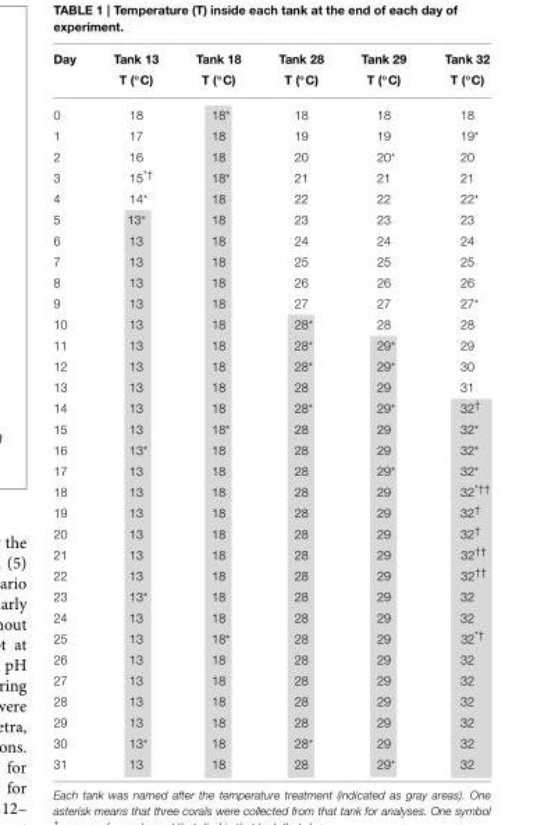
<table><thead><tr><td>Day</td><td>Tank 13 T (◦C)</td><td>Tank 18 T (◦C)</td><td>Tank 28 T (◦C)</td><td>Tank 29 T (◦C)</td><td>Tank 32 T (◦C)</td></tr></thead><tbody><tr><td>0</td><td>18</td><td>18*</td><td>18</td><td>18</td><td>18</td></tr><tr><td>1</td><td>17</td><td>18</td><td>19</td><td>19</td><td>19*</td></tr><tr><td>2</td><td>16</td><td>18</td><td>20</td><td>20*</td><td>20</td></tr><tr><td>3</td><td>15<sup>*†</sup></td><td>18*</td><td>21</td><td>21</td><td>21</td></tr><tr><td>4</td><td>14*</td><td>18</td><td>22</td><td>22</td><td>22*</td></tr><tr><td>5</td><td>13*</td><td>18</td><td>23</td><td>23</td><td>23</td></tr><tr><td>6</td><td>13</td><td>18</td><td>24</td><td>24</td><td>24</td></tr><tr><td>7</td><td>13</td><td>18</td><td>25</td><td>25</td><td>25</td></tr><tr><td>8</td><td>13</td><td>18</td><td>26</td><td>26</td><td>26</td></tr><tr><td>9</td><td>13</td><td>18</td><td>27</td><td>27</td><td>27*</td></tr><tr><td>10</td><td>13</td><td>18</td><td>28*</td><td>28</td><td>28</td></tr><tr><td>11</td><td>13</td><td>18</td><td>28*</td><td>29*</td><td>29</td></tr><tr><td>12</td><td>13</td><td>18</td><td>28*</td><td>29*</td><td>30</td></tr><tr><td>13</td><td>13</td><td>18</td><td>28</td><td>29</td><td>31</td></tr><tr><td>14</td><td>13</td><td>18</td><td>28*</td><td>29*</td><td>32<sup>†</sup></td></tr><tr><td>15</td><td>13</td><td>18*</td><td>28</td><td>29</td><td>32*</td></tr><tr><td>16</td><td>13*</td><td>18</td><td>28</td><td>29</td><td>32*</td></tr><tr><td>17</td><td>13</td><td>18</td><td>28</td><td>29*</td><td>32*</td></tr><tr><td>18</td><td>13</td><td>18</td><td>28</td><td>29</td><td>32<sup>*††</sup></td></tr><tr><td>19</td><td>13</td><td>18</td><td>28</td><td>29</td><td>32<sup>†</sup></td></tr><tr><td>20</td><td>13</td><td>18</td><td>28</td><td>29</td><td>32<sup>†</sup></td></tr><tr><td>21</td><td>13</td><td>18</td><td>28</td><td>29</td><td>32<sup>††</sup></td></tr><tr><td>22</td><td>13</td><td>18</td><td>28</td><td>29</td><td>32<sup>††</sup></td></tr><tr><td>23</td><td>13*</td><td>18</td><td>28</td><td>29</td><td>32</td></tr><tr><td>24</td><td>13</td><td>18</td><td>28</td><td>29</td><td>32</td></tr><tr><td>25</td><td>13</td><td>18*</td><td>28</td><td>29</td><td>32<sup>*†</sup></td></tr><tr><td>26</td><td>13</td><td>18</td><td>28</td><td>29</td><td>32</td></tr><tr><td>27</td><td>13</td><td>18</td><td>28</td><td>29</td><td>32</td></tr><tr><td>28</td><td>13</td><td>18</td><td>28</td><td>29</td><td>32</td></tr><tr><td>29</td><td>13</td><td>18</td><td>28</td><td>29</td><td>32</td></tr><tr><td>30</td><td>13*</td><td>18</td><td>28*</td><td>29</td><td>32</td></tr><tr><td>31</td><td>13</td><td>18</td><td>28</td><td>29*</td><td>32</td></tr></tbody></table>